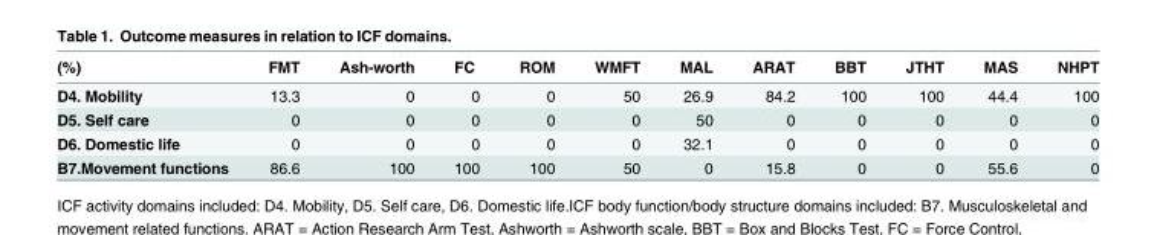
<table><thead><tr><td>(%)</td><td>FMT</td><td>Ash-worth</td><td>FC</td><td>ROM</td><td>WMFT</td><td>MAL</td><td>ARAT</td><td>BBT</td><td>JTHT</td><td>MAS</td><td>NHPT</td></tr></thead><tbody><tr><td>D4. Mobility</td><td>13.3</td><td>0</td><td>0</td><td>0</td><td>50</td><td>26.9</td><td>84.2</td><td>100</td><td>100</td><td>44.4</td><td>100</td></tr><tr><td>D5. Self care</td><td>0</td><td>0</td><td>0</td><td>0</td><td>0</td><td>50</td><td>0</td><td>0</td><td>0</td><td>0</td><td>0</td></tr><tr><td>D6. Domestic life</td><td>0</td><td>0</td><td>0</td><td>0</td><td>0</td><td>32.1</td><td>0</td><td>0</td><td>0</td><td>0</td><td>0</td></tr><tr><td>B7.Movement functions</td><td>86.6</td><td>100</td><td>100</td><td>100</td><td>50</td><td>0</td><td>15.8</td><td>0</td><td>0</td><td>55.6</td><td>0</td></tr></tbody></table>